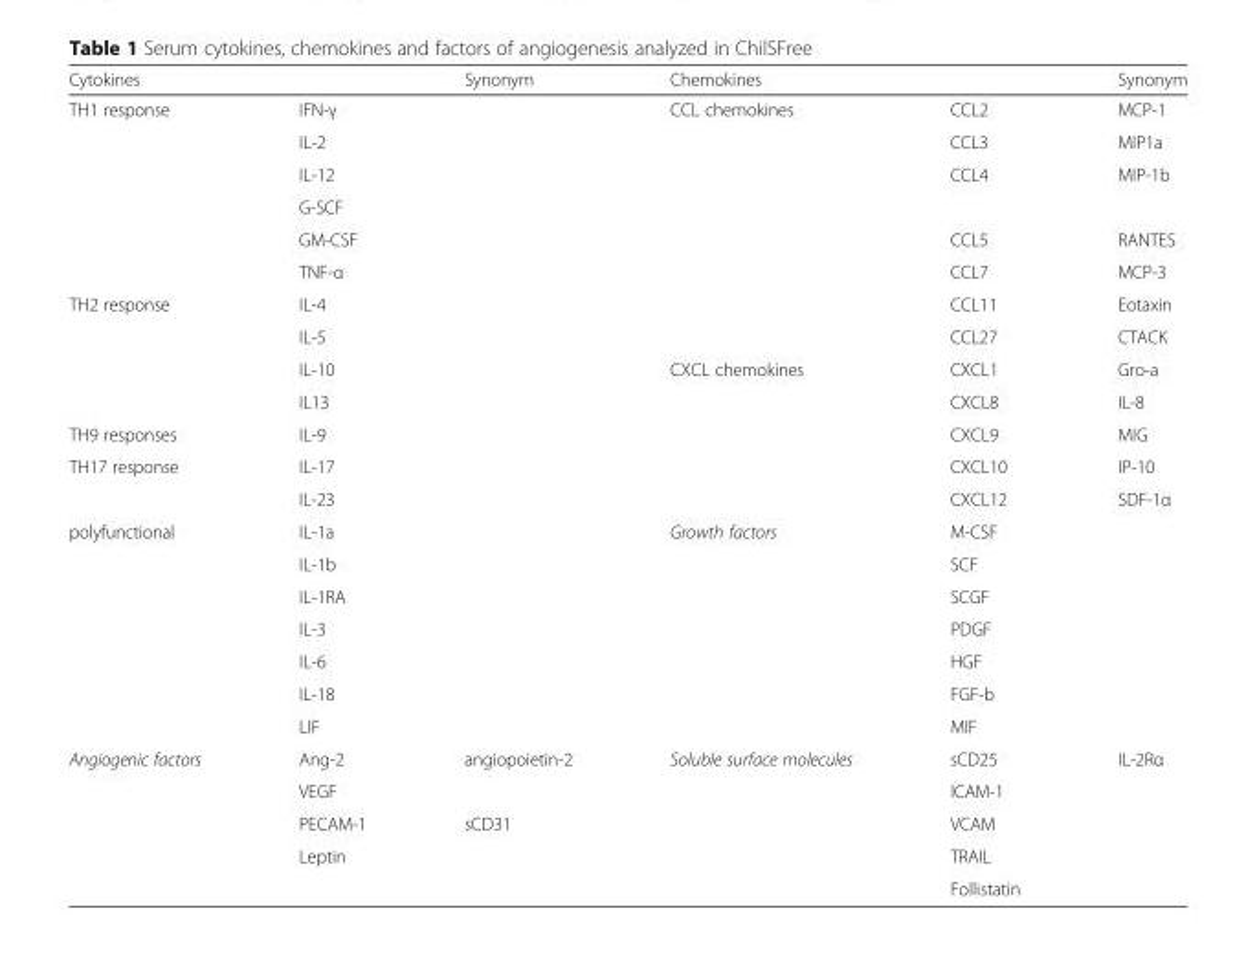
<table><thead><tr><td>Cytokines</td><td></td><td>Synonym</td><td>Chemokines</td><td></td><td>Synonym</td></tr></thead><tbody><tr><td rowspan="6">TH1 response</td><td>IFN-γ</td><td></td><td>CCL chemokines</td><td>CCL2</td><td>MCP-1</td></tr><tr><td>IL-2</td><td></td><td></td><td>CCL3</td><td>MIP1a</td></tr><tr><td>IL-12</td><td></td><td></td><td>CCL4</td><td>MIP-1b</td></tr><tr><td>G-SCF</td><td></td><td></td><td></td><td></td></tr><tr><td>GM-CSF</td><td></td><td></td><td>CCL5</td><td>RANTES</td></tr><tr><td>TNF-α</td><td></td><td></td><td>CCL7</td><td>MCP-3</td></tr><tr><td rowspan="4">TH2 response</td><td>IL-4</td><td></td><td></td><td>CCL11</td><td>Eotaxin</td></tr><tr><td>IL-5</td><td></td><td></td><td>CCL27</td><td>CTACK</td></tr><tr><td>IL-10</td><td></td><td>CXCL chemokines</td><td>CXCL1</td><td>Gro-a</td></tr><tr><td>IL13</td><td></td><td></td><td>CXCL8</td><td>IL-8</td></tr><tr><td>TH9 responses</td><td>IL-9</td><td></td><td></td><td>CXCL9</td><td>MIG</td></tr><tr><td rowspan="2">TH17 response</td><td>IL-17</td><td></td><td></td><td>CXCL10</td><td>IP-10</td></tr><tr><td>IL-23</td><td></td><td></td><td>CXCL12</td><td>SDF-1α</td></tr><tr><td rowspan="7">polyfunctional</td><td>IL-1a</td><td></td><td>Growth factors</td><td>M-CSF</td><td></td></tr><tr><td>IL-1b</td><td></td><td></td><td>SCF</td><td></td></tr><tr><td>IL-1RA</td><td></td><td></td><td>SCGF</td><td></td></tr><tr><td>IL-3</td><td></td><td></td><td>PDGF</td><td></td></tr><tr><td>IL-6</td><td></td><td></td><td>HGF</td><td></td></tr><tr><td>IL-18</td><td></td><td></td><td>FGF-b</td><td></td></tr><tr><td>LIF</td><td></td><td></td><td>MIF</td><td></td></tr><tr><td rowspan="5">Angiogenic factors</td><td>Ang-2</td><td>angiopoietin-2</td><td>Soluble surface molecules</td><td>sCD25</td><td>IL-2Rα</td></tr><tr><td>VEGF</td><td></td><td></td><td>ICAM-1</td><td></td></tr><tr><td>PECAM-1</td><td>sCD31</td><td></td><td>VCAM</td><td></td></tr><tr><td>Leptin</td><td></td><td></td><td>TRAIL</td><td></td></tr><tr><td></td><td></td><td></td><td>Follistatin</td><td></td></tr></tbody></table>